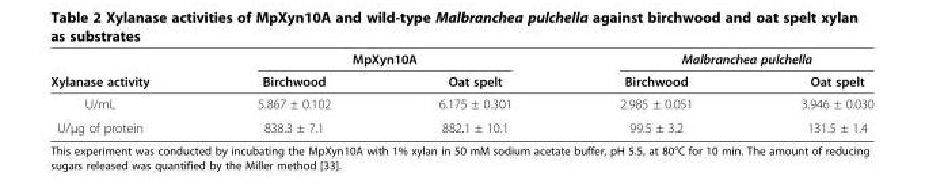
<table><thead><tr><td rowspan="2">Xylanase activity</td><td colspan="2">MpXyn10A</td><td colspan="2">Malbranchea pulchella</td></tr><tr><td>Birchwood</td><td>Oat spelt</td><td>Birchwood</td><td>Oat spelt</td></tr></thead><tbody><tr><td>U/mL</td><td>5.867 ± 0.102</td><td>6.175 ± 0.301</td><td>2.985 ± 0.051</td><td>3.946 ± 0.030</td></tr><tr><td>U/μg of protein</td><td>838.3 ± 7.1</td><td>882.1 ± 10.1</td><td>99.5 ± 3.2</td><td>131.5 ± 1.4</td></tr></tbody></table>